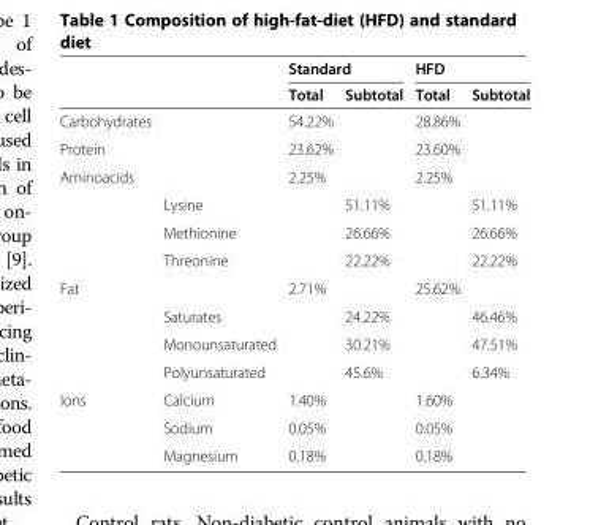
<table><thead><tr><td rowspan="2"></td><td rowspan="2"></td><td colspan="2">Standard</td><td colspan="2">HFD</td></tr><tr><td>Total</td><td>Subtotal</td><td>Total</td><td>Subtotal</td></tr></thead><tbody><tr><td>Carbohydrates</td><td></td><td>54.22%</td><td></td><td>28.86%</td><td></td></tr><tr><td>Protein</td><td></td><td>23.62%</td><td></td><td>23.60%</td><td></td></tr><tr><td rowspan="4">Aminoacids</td><td></td><td>2.25%</td><td></td><td>2.25%</td><td></td></tr><tr><td>Lysine</td><td></td><td>51.11%</td><td></td><td>51.11%</td></tr><tr><td>Methionine</td><td></td><td>26.66%</td><td></td><td>26.66%</td></tr><tr><td>Threonine</td><td></td><td>22.22%</td><td></td><td>22.22%</td></tr><tr><td rowspan="4">Fat</td><td></td><td>2.71%</td><td></td><td>25.62%</td><td></td></tr><tr><td>Saturates</td><td></td><td>24.22%</td><td></td><td>46.46%</td></tr><tr><td>Monounsaturated</td><td></td><td>30.21%</td><td></td><td>47.51%</td></tr><tr><td>Polyunsaturated</td><td></td><td>45.6%</td><td></td><td>6.34%</td></tr><tr><td rowspan="3">Ions</td><td>Calcium</td><td>1.40%</td><td></td><td>1.60%</td><td></td></tr><tr><td>Sodium</td><td>0.05%</td><td></td><td>0.05%</td><td></td></tr><tr><td>Magnesium</td><td>0.18%</td><td></td><td>0.18%</td><td></td></tr></tbody></table>